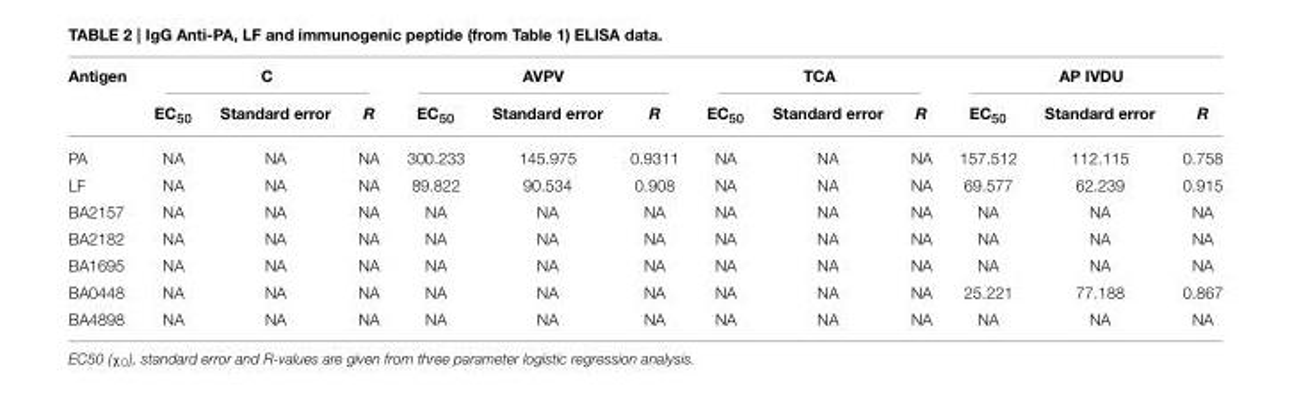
<table><thead><tr><td rowspan="2">Antigen</td><td colspan="3">C</td><td colspan="3">AVPV</td><td colspan="3">TCA</td><td colspan="3">AP IVDU</td></tr><tr><td>EC<sub>50</sub></td><td>Standard error</td><td>R</td><td>EC<sub>50</sub></td><td>Standard error</td><td>R</td><td>EC<sub>50</sub></td><td>Standard error</td><td>R</td><td>EC<sub>50</sub></td><td>Standard error</td><td>R</td></tr></thead><tbody><tr><td>PA</td><td>NA</td><td>NA</td><td>NA</td><td>300.233</td><td>145.975</td><td>0.9311</td><td>NA</td><td>NA</td><td>NA</td><td>157.512</td><td>112.115</td><td>0.758</td></tr><tr><td>LF</td><td>NA</td><td>NA</td><td>NA</td><td>89.822</td><td>90.534</td><td>0.908</td><td>NA</td><td>NA</td><td>NA</td><td>69.577</td><td>62.239</td><td>0.915</td></tr><tr><td>BA2157</td><td>NA</td><td>NA</td><td>NA</td><td>NA</td><td>NA</td><td>NA</td><td>NA</td><td>NA</td><td>NA</td><td>NA</td><td>NA</td><td>NA</td></tr><tr><td>BA2182</td><td>NA</td><td>NA</td><td>NA</td><td>NA</td><td>NA</td><td>NA</td><td>NA</td><td>NA</td><td>NA</td><td>NA</td><td>NA</td><td>NA</td></tr><tr><td>BA1695</td><td>NA</td><td>NA</td><td>NA</td><td>NA</td><td>NA</td><td>NA</td><td>NA</td><td>NA</td><td>NA</td><td>NA</td><td>NA</td><td>NA</td></tr><tr><td>BA0448</td><td>NA</td><td>NA</td><td>NA</td><td>NA</td><td>NA</td><td>NA</td><td>NA</td><td>NA</td><td>NA</td><td>25.221</td><td>77.188</td><td>0.867</td></tr><tr><td>BA4898</td><td>NA</td><td>NA</td><td>NA</td><td>NA</td><td>NA</td><td>NA</td><td>NA</td><td>NA</td><td>NA</td><td>NA</td><td>NA</td><td>NA</td></tr></tbody></table>